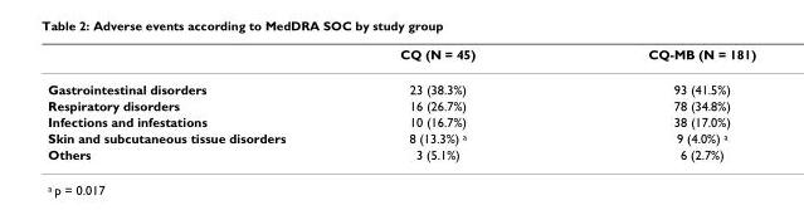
<table><thead><tr><td></td><td>CQ (N = 45)</td><td>CQ-MB (N = 181)</td></tr></thead><tbody><tr><td>Gastrointestinal disorders</td><td>23 (38.3%)</td><td>93 (41.5%)</td></tr><tr><td>Respiratory disorders</td><td>16 (26.7%)</td><td>78 (34.8%)</td></tr><tr><td>Infections and infestations</td><td>10 (16.7%)</td><td>38 (17.0%)</td></tr><tr><td>Skin and subcutaneous tissue disorders</td><td>8 (13.3%) <sup>a</sup></td><td>9 (4.0%) <sup>a</sup></td></tr><tr><td>Others</td><td>3 (5.1%)</td><td>6 (2.7%)</td></tr></tbody></table>